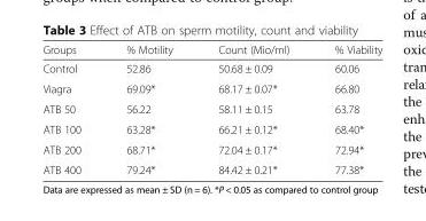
<table><thead><tr><td>Groups</td><td>% Motility</td><td>Count (Mio/ml)</td><td>% Viability</td></tr></thead><tbody><tr><td>Control</td><td>52.86</td><td>50.68 ± 0.09</td><td>60.06</td></tr><tr><td>Viagra</td><td>69.09*</td><td>68.17 ± 0.07*</td><td>66.80</td></tr><tr><td>ATB 50</td><td>56.22</td><td>58.11 ± 0.15</td><td>63.78</td></tr><tr><td>ATB 100</td><td>63.28*</td><td>66.21 ± 0.12*</td><td>68.40*</td></tr><tr><td>ATB 200</td><td>68.71*</td><td>72.04 ± 0.17*</td><td>72.94*</td></tr><tr><td>ATB 400</td><td>79.24*</td><td>84.42 ± 0.21*</td><td>77.38*</td></tr></tbody></table>